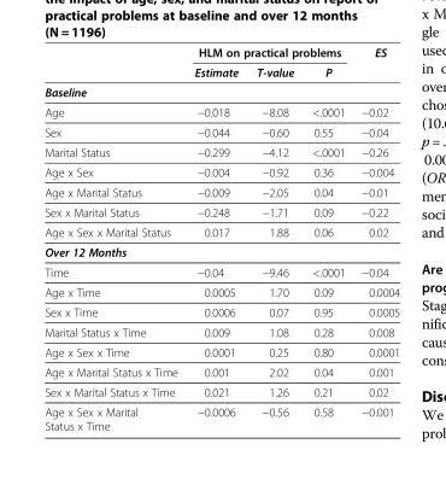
<table><thead><tr><td rowspan="2"></td><td colspan="3">HLM on practical problems</td><td rowspan="2">ES</td></tr><tr><td>Estimate</td><td>T-value</td><td>P</td></tr></thead><tbody><tr><td colspan="5">Baseline</td></tr><tr><td>Age</td><td>−0.018</td><td>−8.08</td><td>&lt;.0001</td><td>−0.02</td></tr><tr><td>Sex</td><td>−0.044</td><td>−0.60</td><td>0.55</td><td>−0.04</td></tr><tr><td>Marital Status</td><td>−0.299</td><td>−4.12</td><td>&lt;.0001</td><td>−0.26</td></tr><tr><td>Age x Sex</td><td>−0.004</td><td>−0.92</td><td>0.36</td><td>−0.004</td></tr><tr><td>Age x Marital Status</td><td>−0.009</td><td>−2.05</td><td>0.04</td><td>−0.01</td></tr><tr><td>Sex x Marital Status</td><td>−0.248</td><td>−1.71</td><td>0.09</td><td>−0.22</td></tr><tr><td>Age x Sex x Marital Status</td><td>0.017</td><td>1.88</td><td>0.06</td><td>0.02</td></tr><tr><td colspan="5">Over 12 Months</td></tr><tr><td>Time</td><td>−0.04</td><td>−9.46</td><td>&lt;.0001</td><td>−0.04</td></tr><tr><td>Age x Time</td><td>0.0005</td><td>1.70</td><td>0.09</td><td>0.0004</td></tr><tr><td>Sex x Time</td><td>0.0006</td><td>0.07</td><td>0.95</td><td>0.0005</td></tr><tr><td>Marital Status x Time</td><td>0.009</td><td>1.08</td><td>0.28</td><td>0.008</td></tr><tr><td>Age x Sex x Time</td><td>0.0001</td><td>0.25</td><td>0.80</td><td>0.0001</td></tr><tr><td>Age x Marital Status x Time</td><td>0.001</td><td>2.02</td><td>0.04</td><td>0.001</td></tr><tr><td>Sex x Marital Status x Time</td><td>0.021</td><td>1.26</td><td>0.21</td><td>0.02</td></tr><tr><td>Age x Sex x Marital Status x Time</td><td>−0.0006</td><td>−0.56</td><td>0.58</td><td>−0.001</td></tr></tbody></table>